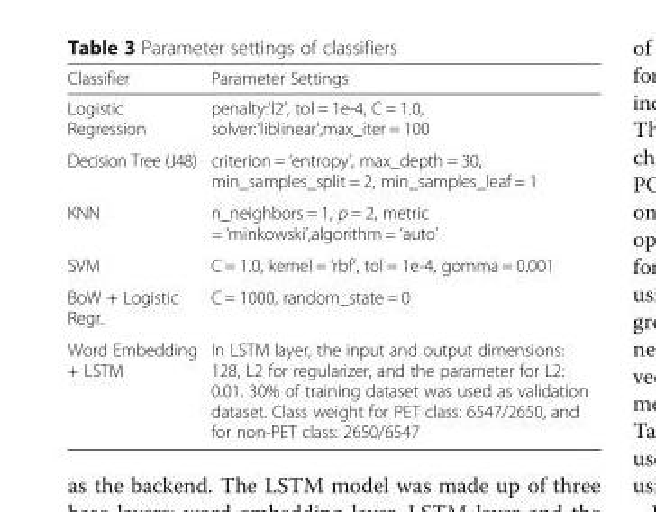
<table><thead><tr><td>Classifier</td><td>Parameter Settings</td></tr></thead><tbody><tr><td>Logistic Regression</td><td>penalty:&#x27;l2’, tol = 1e-4, C = 1.0, solver:&#x27;liblinear’,max_iter = 100</td></tr><tr><td>Decision Tree (J48)</td><td>criterion = ‘entropy’, max_depth = 30, min_samples_split = 2, min_samples_leaf = 1</td></tr><tr><td>KNN</td><td>n_neighbors = 1, p = 2, metric = ‘minkowski’,algorithm = ‘auto’</td></tr><tr><td>SVM</td><td>C = 1.0, kernel = ‘rbf’, tol = 1e-4, gomma = 0.001</td></tr><tr><td>BoW + Logistic Regr.</td><td>C = 1000, random_state = 0</td></tr><tr><td>Word Embedding + LSTM</td><td>In LSTM layer, the input and output dimensions: 128, L2 for regularizer, and the parameter for L2: 0.01. 30% of training dataset was used as validation dataset. Class weight for PET class: 6547/2650, and for non-PET class: 2650/6547</td></tr></tbody></table>